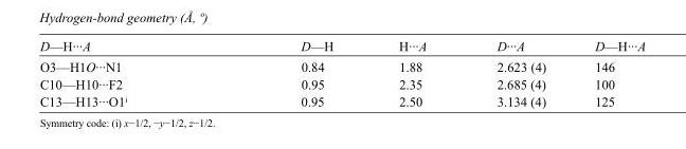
<table><tbody><tr><td>D—H···A</td><td>D—H</td><td>H···A</td><td>D···A</td><td>D—H···A</td></tr><tr><td>O3—H1O···N1</td><td>0.84</td><td>1.88</td><td>2.623 (4)</td><td>146</td></tr><tr><td>C10—H10···F2</td><td>0.95</td><td>2.35</td><td>2.685 (4)</td><td>100</td></tr><tr><td>C13—H13···O1<sup>i</sup></td><td>0.95</td><td>2.50</td><td>3.134 (4)</td><td>125</td></tr></tbody></table>